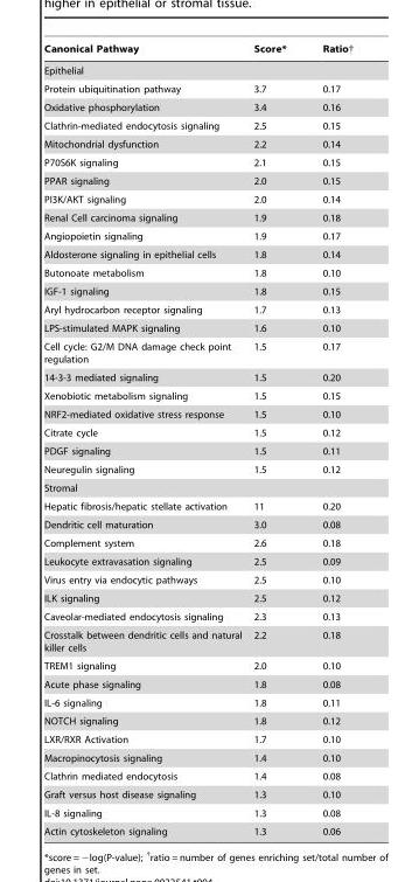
<table><thead><tr><td>Canonical Pathway</td><td>Score*</td><td>Ratio†</td></tr></thead><tbody><tr><td colspan="3">Epithelial</td></tr><tr><td>Protein ubiquitination pathway</td><td>3.7</td><td>0.17</td></tr><tr><td>Oxidative phosphorylation</td><td>3.4</td><td>0.16</td></tr><tr><td>Clathrin-mediated endocytosis signaling</td><td>2.5</td><td>0.15</td></tr><tr><td>Mitochondrial dysfunction</td><td>2.2</td><td>0.14</td></tr><tr><td>P70S6K signaling</td><td>2.1</td><td>0.15</td></tr><tr><td>PPAR signaling</td><td>2.0</td><td>0.15</td></tr><tr><td>PI3K/AKT signaling</td><td>2.0</td><td>0.14</td></tr><tr><td>Renal Cell carcinoma signaling</td><td>1.9</td><td>0.18</td></tr><tr><td>Angiopoietin signaling</td><td>1.9</td><td>0.17</td></tr><tr><td>Aldosterone signaling in epithelial cells</td><td>1.8</td><td>0.14</td></tr><tr><td>Butonoate metabolism</td><td>1.8</td><td>0.10</td></tr><tr><td>IGF-1 signaling</td><td>1.8</td><td>0.15</td></tr><tr><td>Aryl hydrocarbon receptor signaling</td><td>1.7</td><td>0.13</td></tr><tr><td>LPS-stimulated MAPK signaling</td><td>1.6</td><td>0.10</td></tr><tr><td>Cell cycle: G2/M DNA damage check point regulation</td><td>1.5</td><td>0.17</td></tr><tr><td>14-3-3 mediated signaling</td><td>1.5</td><td>0.20</td></tr><tr><td>Xenobiotic metabolism signaling</td><td>1.5</td><td>0.15</td></tr><tr><td>NRF2-mediated oxidative stress response</td><td>1.5</td><td>0.10</td></tr><tr><td>Citrate cycle</td><td>1.5</td><td>0.12</td></tr><tr><td>PDGF signaling</td><td>1.5</td><td>0.11</td></tr><tr><td>Neuregulin signaling</td><td>1.5</td><td>0.12</td></tr><tr><td colspan="3">Stromal</td></tr><tr><td>Hepatic fibrosis/hepatic stellate activation</td><td>11</td><td>0.20</td></tr><tr><td>Dendritic cell maturation</td><td>3.0</td><td>0.08</td></tr><tr><td>Complement system</td><td>2.6</td><td>0.18</td></tr><tr><td>Leukocyte extravasation signaling</td><td>2.5</td><td>0.09</td></tr><tr><td>Virus entry via endocytic pathways</td><td>2.5</td><td>0.10</td></tr><tr><td>ILK signaling</td><td>2.5</td><td>0.12</td></tr><tr><td>Caveolar-mediated endocytosis signaling</td><td>2.3</td><td>0.13</td></tr><tr><td>Crosstalk between dendritic cells and natural killer cells</td><td>2.2</td><td>0.18</td></tr><tr><td>TREM1 signaling</td><td>2.0</td><td>0.10</td></tr><tr><td>Acute phase signaling</td><td>1.8</td><td>0.08</td></tr><tr><td>IL-6 signaling</td><td>1.8</td><td>0.11</td></tr><tr><td>NOTCH signaling</td><td>1.8</td><td>0.12</td></tr><tr><td>LXR/RXR Activation</td><td>1.7</td><td>0.10</td></tr><tr><td>Macropinocytosis signaling</td><td>1.4</td><td>0.10</td></tr><tr><td>Clathrin mediated endocytosis</td><td>1.4</td><td>0.08</td></tr><tr><td>Graft versus host disease signaling</td><td>1.3</td><td>0.10</td></tr><tr><td>IL-8 signaling</td><td>1.3</td><td>0.08</td></tr><tr><td>Actin cytoskeleton signaling</td><td>1.3</td><td>0.06</td></tr></tbody></table>